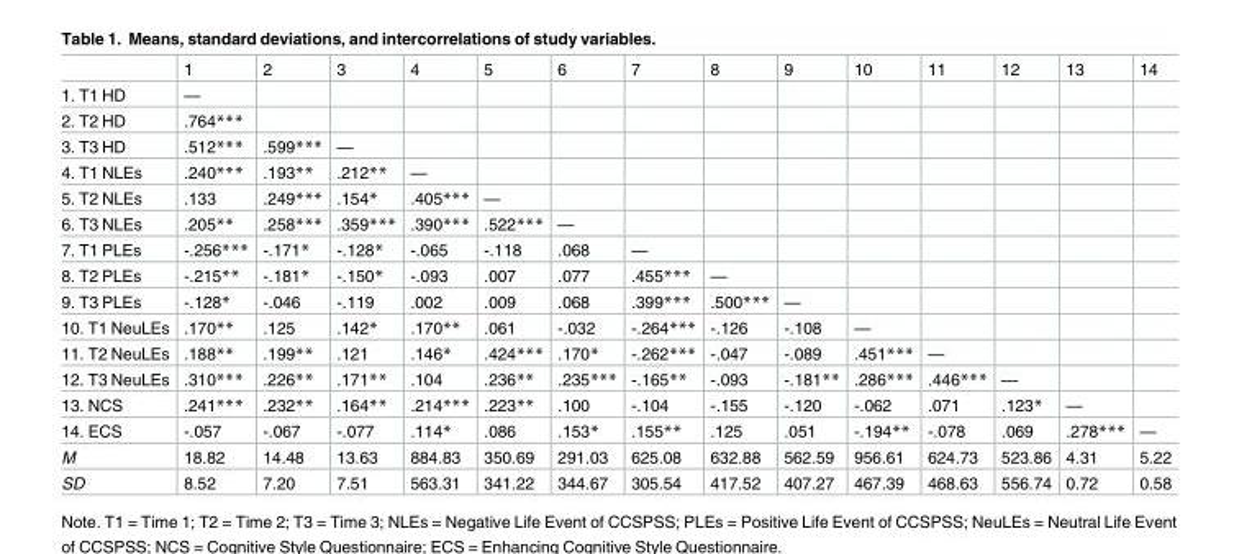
<table><thead><tr><td></td><td>1</td><td>2</td><td>3</td><td>4</td><td>5</td><td>6</td><td>7</td><td>8</td><td>9</td><td>10</td><td>11</td><td>12</td><td>13</td><td>14</td></tr></thead><tbody><tr><td>1. T1 HD</td><td>—</td><td></td><td></td><td></td><td></td><td></td><td></td><td></td><td></td><td></td><td></td><td></td><td></td><td></td></tr><tr><td>2. T2 HD</td><td>.764***</td><td></td><td></td><td></td><td></td><td></td><td></td><td></td><td></td><td></td><td></td><td></td><td></td><td></td></tr><tr><td>3. T3 HD</td><td>.512***</td><td>.599***</td><td>—</td><td></td><td></td><td></td><td></td><td></td><td></td><td></td><td></td><td></td><td></td><td></td></tr><tr><td>4. T1 NLEs</td><td>.240***</td><td>.193**</td><td>.212**</td><td>—</td><td></td><td></td><td></td><td></td><td></td><td></td><td></td><td></td><td></td><td></td></tr><tr><td>5. T2 NLEs</td><td>.133</td><td>.249***</td><td>.154*</td><td>.405***</td><td>—</td><td></td><td></td><td></td><td></td><td></td><td></td><td></td><td></td><td></td></tr><tr><td>6. T3 NLEs</td><td>.205**</td><td>.258***</td><td>.359***</td><td>.390***</td><td>.522***</td><td>—</td><td></td><td></td><td></td><td></td><td></td><td></td><td></td><td></td></tr><tr><td>7. T1 PLEs</td><td>-.256***</td><td>-.171*</td><td>-.128*</td><td>-.065</td><td>-.118</td><td>.068</td><td>—</td><td></td><td></td><td></td><td></td><td></td><td></td><td></td></tr><tr><td>8. T2 PLEs</td><td>-.215**</td><td>-.181*</td><td>-.150*</td><td>-.093</td><td>.007</td><td>.077</td><td>.455***</td><td>—</td><td></td><td></td><td></td><td></td><td></td><td></td></tr><tr><td>9. T3 PLEs</td><td>-.128*</td><td>-.046</td><td>-.119</td><td>.002</td><td>.009</td><td>.068</td><td>.399***</td><td>.500***</td><td>—</td><td></td><td></td><td></td><td></td><td></td></tr><tr><td>10. T1 NeuLEs</td><td>.170**</td><td>.125</td><td>.142*</td><td>.170**</td><td>.061</td><td>-.032</td><td>-.264***</td><td>-.126</td><td>-.108</td><td>—</td><td></td><td></td><td></td><td></td></tr><tr><td>11. T2 NeuLEs</td><td>.188**</td><td>.199**</td><td>.121</td><td>.146*</td><td>.424***</td><td>.170*</td><td>-.262***</td><td>-.047</td><td>-.089</td><td>.451***</td><td>—</td><td></td><td></td><td></td></tr><tr><td>12. T3 NeuLEs</td><td>.310***</td><td>.226**</td><td>.171**</td><td>.104</td><td>.236**</td><td>.235***</td><td>-.165**</td><td>-.093</td><td>-.181**</td><td>.286***</td><td>.446***</td><td>—</td><td></td><td></td></tr><tr><td>13. NCS</td><td>.241***</td><td>.232**</td><td>.164**</td><td>.214***</td><td>.223**</td><td>.100</td><td>-.104</td><td>-.155</td><td>-.120</td><td>-.062</td><td>.071</td><td>.123*</td><td>—</td><td></td></tr><tr><td>14. ECS</td><td>-.057</td><td>-.067</td><td>-.077</td><td>.114*</td><td>.086</td><td>.153*</td><td>.155**</td><td>.125</td><td>.051</td><td>-.194**</td><td>-.078</td><td>.069</td><td>.278***</td><td>—</td></tr><tr><td>M</td><td>18.82</td><td>14.48</td><td>13.63</td><td>884.83</td><td>350.69</td><td>291.03</td><td>625.08</td><td>632.88</td><td>562.59</td><td>956.61</td><td>624.73</td><td>523.86</td><td>4.31</td><td>5.22</td></tr><tr><td>SD</td><td>8.52</td><td>7.20</td><td>7.51</td><td>563.31</td><td>341.22</td><td>344.67</td><td>305.54</td><td>417.52</td><td>407.27</td><td>467.39</td><td>468.63</td><td>556.74</td><td>0.72</td><td>0.58</td></tr></tbody></table>